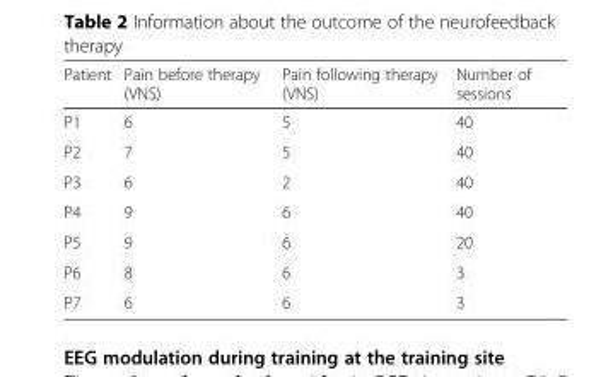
<table><thead><tr><td>Patient</td><td>Pain before therapy (VNS)</td><td>Pain following therapy (VNS)</td><td>Number of sessions</td></tr></thead><tbody><tr><td>P1</td><td>6</td><td>5</td><td>40</td></tr><tr><td>P2</td><td>7</td><td>5</td><td>40</td></tr><tr><td>P3</td><td>6</td><td>2</td><td>40</td></tr><tr><td>P4</td><td>9</td><td>6</td><td>40</td></tr><tr><td>P5</td><td>9</td><td>6</td><td>20</td></tr><tr><td>P6</td><td>8</td><td>6</td><td>3</td></tr><tr><td>P7</td><td>6</td><td>6</td><td>3</td></tr></tbody></table>